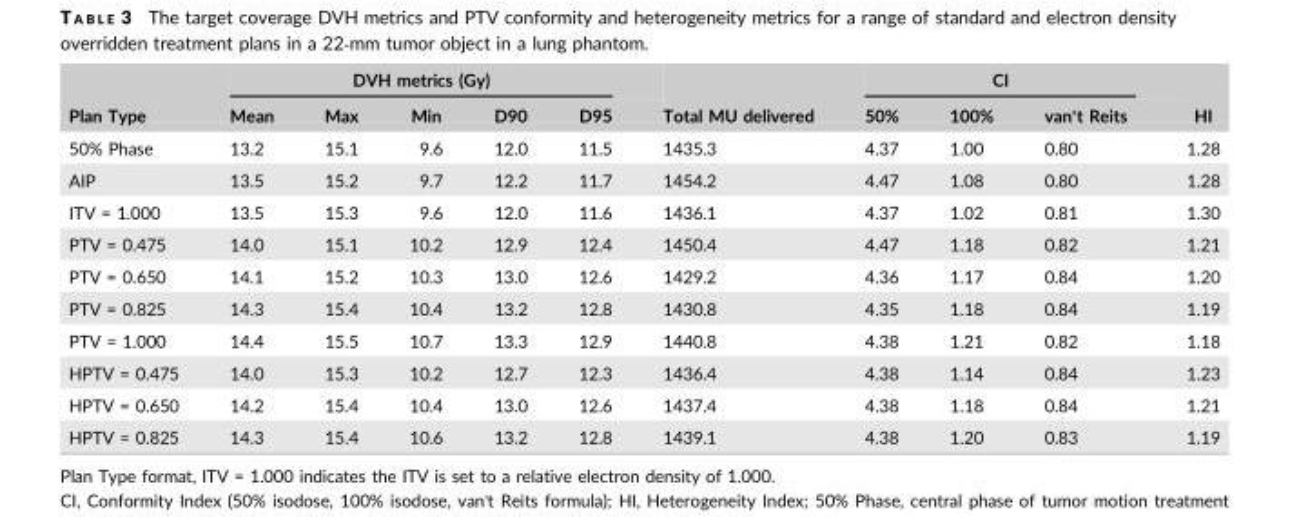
<table><thead><tr><td rowspan="2">Plan Type</td><td colspan="5">DVH metrics (Gy)</td><td rowspan="2">Total MU delivered</td><td colspan="3">CI</td><td rowspan="2">HI</td></tr><tr><td>Mean</td><td>Max</td><td>Min</td><td>D90</td><td>D95</td><td>50%</td><td>100%</td><td>van&#x27;t Reits</td></tr></thead><tbody><tr><td>50% Phase</td><td>13.2</td><td>15.1</td><td>9.6</td><td>12.0</td><td>11.5</td><td>1435.3</td><td>4.37</td><td>1.00</td><td>0.80</td><td>1.28</td></tr><tr><td>AIP</td><td>13.5</td><td>15.2</td><td>9.7</td><td>12.2</td><td>11.7</td><td>1454.2</td><td>4.47</td><td>1.08</td><td>0.80</td><td>1.28</td></tr><tr><td>ITV = 1.000</td><td>13.5</td><td>15.3</td><td>9.6</td><td>12.0</td><td>11.6</td><td>1436.1</td><td>4.37</td><td>1.02</td><td>0.81</td><td>1.30</td></tr><tr><td>PTV = 0.475</td><td>14.0</td><td>15.1</td><td>10.2</td><td>12.9</td><td>12.4</td><td>1450.4</td><td>4.47</td><td>1.18</td><td>0.82</td><td>1.21</td></tr><tr><td>PTV = 0.650</td><td>14.1</td><td>15.2</td><td>10.3</td><td>13.0</td><td>12.6</td><td>1429.2</td><td>4.36</td><td>1.17</td><td>0.84</td><td>1.20</td></tr><tr><td>PTV = 0.825</td><td>14.3</td><td>15.4</td><td>10.4</td><td>13.2</td><td>12.8</td><td>1430.8</td><td>4.35</td><td>1.18</td><td>0.84</td><td>1.19</td></tr><tr><td>PTV = 1.000</td><td>14.4</td><td>15.5</td><td>10.7</td><td>13.3</td><td>12.9</td><td>1440.8</td><td>4.38</td><td>1.21</td><td>0.82</td><td>1.18</td></tr><tr><td>HPTV = 0.475</td><td>14.0</td><td>15.3</td><td>10.2</td><td>12.7</td><td>12.3</td><td>1436.4</td><td>4.38</td><td>1.14</td><td>0.84</td><td>1.23</td></tr><tr><td>HPTV = 0.650</td><td>14.2</td><td>15.4</td><td>10.4</td><td>13.0</td><td>12.6</td><td>1437.4</td><td>4.38</td><td>1.18</td><td>0.84</td><td>1.21</td></tr><tr><td>HPTV = 0.825</td><td>14.3</td><td>15.4</td><td>10.6</td><td>13.2</td><td>12.8</td><td>1439.1</td><td>4.38</td><td>1.20</td><td>0.83</td><td>1.19</td></tr></tbody></table>